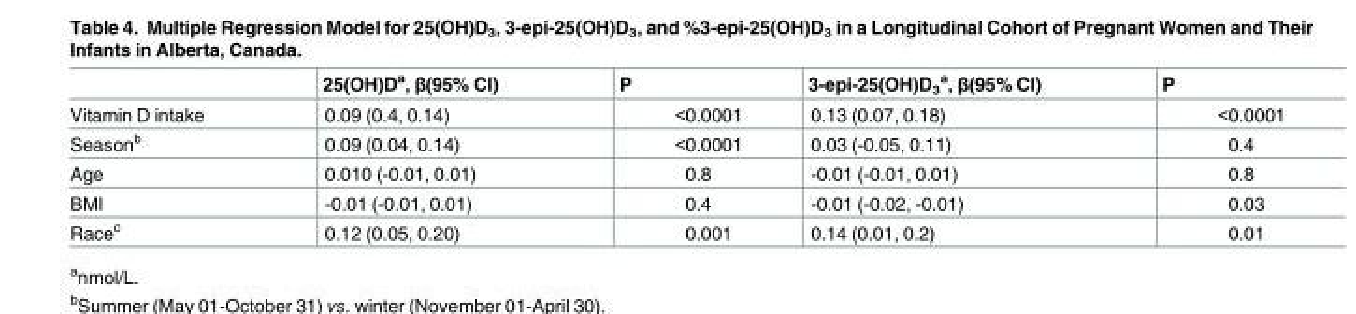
<table><thead><tr><td></td><td>25(OH)D<sup>a</sup>, β(95% CI)</td><td>P</td><td>3-epi-25(OH)D<sub>3</sub> <sup>a</sup>, β(95% CI)</td><td>P</td></tr></thead><tbody><tr><td>Vitamin D intake</td><td>0.09 (0.4, 0.14)</td><td>&lt;0.0001</td><td>0.13 (0.07, 0.18)</td><td>&lt;0.0001</td></tr><tr><td>Season<sup>b</sup></td><td>0.09 (0.04, 0.14)</td><td>&lt;0.0001</td><td>0.03 (-0.05, 0.11)</td><td>0.4</td></tr><tr><td>Age</td><td>0.010 (-0.01, 0.01)</td><td>0.8</td><td>-0.01 (-0.01, 0.01)</td><td>0.8</td></tr><tr><td>BMI</td><td>-0.01 (-0.01, 0.01)</td><td>0.4</td><td>-0.01 (-0.02, -0.01)</td><td>0.03</td></tr><tr><td>Race<sup>c</sup></td><td>0.12 (0.05, 0.20)</td><td>0.001</td><td>0.14 (0.01, 0.2)</td><td>0.01</td></tr></tbody></table>